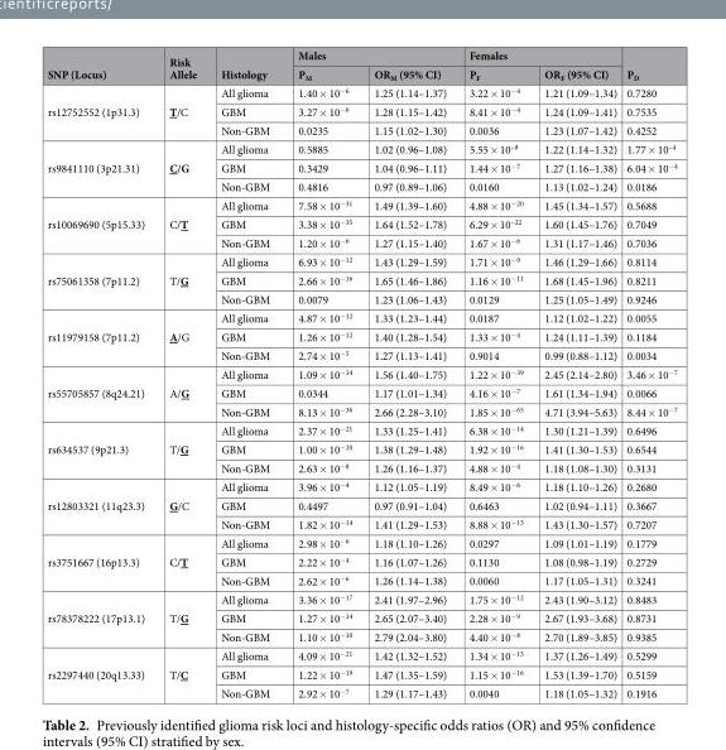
<table><thead><tr><td rowspan="2">SNP (Locus)</td><td rowspan="2">Risk Allele</td><td rowspan="2">Histology</td><td colspan="2">Males</td><td colspan="2">Females</td><td rowspan="2">P<sub>D</sub></td></tr><tr><td>P<sub>M</sub></td><td>OR<sub>M</sub> (95% CI)</td><td>P<sub>F</sub></td><td>OR<sub>F</sub> (95% CI)</td></tr></thead><tbody><tr><td rowspan="3">rs12752552 (1p31.3)</td><td rowspan="3">T/C</td><td>All glioma</td><td>1.40 × 10<sup>−6</sup></td><td>1.25 (1.14–1.37)</td><td>3.22 × 10<sup>−4</sup></td><td>1.21 (1.09–1.34)</td><td>0.7280</td></tr><tr><td>GBM</td><td>3.27 × 10<sup>−6</sup></td><td>1.28 (1.15–1.42)</td><td>8.41 × 10<sup>−4</sup></td><td>1.24 (1.09–1.41)</td><td>0.7535</td></tr><tr><td>Non-GBM</td><td>0.0235</td><td>1.15 (1.02–1.30)</td><td>0.0036</td><td>1.23 (1.07–1.42)</td><td>0.4252</td></tr><tr><td rowspan="3">rs9841110 (3p21.31)</td><td rowspan="3">C/G</td><td>All glioma</td><td>0.5885</td><td>1.02 (0.96–1.08)</td><td>5.55 × 10<sup>–8</sup></td><td>1.22 (1.14–1.32)</td><td>1.77 × 10<sup>–4</sup></td></tr><tr><td>GBM</td><td>0.3429</td><td>1.04 (0.96–1.11)</td><td>1.44 × 10<sup>−7</sup></td><td>1.27 (1.16–1.38)</td><td>6.04 × 10<sup>−4</sup></td></tr><tr><td>Non-GBM</td><td>0.4816</td><td>0.97 (0.89–1.06)</td><td>0.0160</td><td>1.13 (1.02–1.24)</td><td>0.0186</td></tr><tr><td rowspan="3">rs10069690 (5p15.33)</td><td rowspan="3">C/T</td><td>All glioma</td><td>7.58 × 10<sup>−31</sup></td><td>1.49 (1.39–1.60)</td><td>4.88 × 10<sup>−20</sup></td><td>1.45 (1.34–1.57)</td><td>0.5688</td></tr><tr><td>GBM</td><td>3.38 × 10<sup>−35</sup></td><td>1.64 (1.52–1.78)</td><td>6.29 × 10<sup>–22</sup></td><td>1.60 (1.45–1.76)</td><td>0.7049</td></tr><tr><td>Non-GBM</td><td>1.20 × 10<sup>−6</sup></td><td>1.27 (1.15–1.40)</td><td>1.67 × 10<sup>−6</sup></td><td>1.31 (1.17–1.46)</td><td>0.7036</td></tr><tr><td rowspan="3">rs75061358 (7p11.2)</td><td rowspan="3">T/G</td><td>All glioma</td><td>6.93 × 10<sup>−12</sup></td><td>1.43 (1.29–1.59)</td><td>1.71 × 10<sup>−9</sup></td><td>1.46 (1.29–1.66)</td><td>0.8114</td></tr><tr><td>GBM</td><td>2.66 × 10<sup>−16</sup></td><td>1.65 (1.46–1.86)</td><td>1.16 × 10<sup>−11</sup></td><td>1.68 (1.45–1.96)</td><td>0.8211</td></tr><tr><td>Non-GBM</td><td>0.0079</td><td>1.23 (1.06–1.43)</td><td>0.0129</td><td>1.25 (1.05–1.49)</td><td>0.9246</td></tr><tr><td rowspan="3">rs11979158 (7p11.2)</td><td rowspan="3">A/G</td><td>All glioma</td><td>4.87 × 10<sup>−12</sup></td><td>1.33 (1.23–1.44)</td><td>0.0187</td><td>1.12 (1.02–1.22)</td><td>0.0055</td></tr><tr><td>GBM</td><td>1.26 × 10<sup>−12</sup></td><td>1.40 (1.28–1.54)</td><td>1.33 × 10<sup>−4</sup></td><td>1.24 (1.11–1.39)</td><td>0.1184</td></tr><tr><td>Non-GBM</td><td>2.74 × 10<sup>−5</sup></td><td>1.27 (1.13–1.41)</td><td>0.9014</td><td>0.99 (0.88–1.12)</td><td>0.0034</td></tr><tr><td rowspan="3">rs55705857 (8q24.21)</td><td rowspan="3">A/G</td><td>All glioma</td><td>1.09 × 10<sup>−14</sup></td><td>1.56 (1.40–1.75)</td><td>1.22 × 10<sup>−39</sup></td><td>2.45 (2.14–2.80)</td><td>3.46 × 10<sup>−7</sup></td></tr><tr><td>GBM</td><td>0.0344</td><td>1.17 (1.01–1.34)</td><td>4.16 × 10<sup>−7</sup></td><td>1.61 (1.34–1.94)</td><td>0.0066</td></tr><tr><td>Non-GBM</td><td>8.13 × 10<sup>−36</sup></td><td>2.66 (2.28–3.10)</td><td>1.85 × 10<sup>−65</sup></td><td>4.71 (3.94–5.63)</td><td>8.44 × 10<sup>−7</sup></td></tr><tr><td rowspan="3">rs634537 (9p21.3)</td><td rowspan="3">T/G</td><td>All glioma</td><td>2.37 × 10<sup>−21</sup></td><td>1.33 (1.25–1.41)</td><td>6.38 × 10<sup>−14</sup></td><td>1.30 (1.21–1.39)</td><td>0.6496</td></tr><tr><td>GBM</td><td>1.00 × 10<sup>−20</sup></td><td>1.38 (1.29–1.48)</td><td>1.92 × 10<sup>−16</sup></td><td>1.41 (1.30–1.53)</td><td>0.6544</td></tr><tr><td>Non-GBM</td><td>2.63 × 10<sup>−8</sup></td><td>1.26 (1.16–1.37)</td><td>4.88 × 10<sup>−4</sup></td><td>1.18 (1.08–1.30)</td><td>0.3131</td></tr><tr><td rowspan="3">rs12803321 (11q23.3)</td><td rowspan="3">G/C</td><td>All glioma</td><td>3.96 × 10<sup>−4</sup></td><td>1.12 (1.05–1.19)</td><td>8.49 × 10<sup>−6</sup></td><td>1.18 (1.10–1.26)</td><td>0.2680</td></tr><tr><td>GBM</td><td>0.4497</td><td>0.97 (0.91–1.04)</td><td>0.6463</td><td>1.02 (0.94–1.11)</td><td>0.3667</td></tr><tr><td>Non-GBM</td><td>1.82 × 10<sup>−14</sup></td><td>1.41 (1.29–1.53)</td><td>8.88 × 10<sup>−13</sup></td><td>1.43 (1.30–1.57)</td><td>0.7207</td></tr><tr><td rowspan="3">rs3751667 (16p13.3)</td><td rowspan="3">C/T</td><td>All glioma</td><td>2.98 × 10<sup>−6</sup></td><td>1.18 (1.10–1.26)</td><td>0.0297</td><td>1.09 (1.01–1.19)</td><td>0.1779</td></tr><tr><td>GBM</td><td>2.22 × 10<sup>−4</sup></td><td>1.16 (1.07–1.26)</td><td>0.1130</td><td>1.08 (0.98–1.19)</td><td>0.2729</td></tr><tr><td>Non-GBM</td><td>2.62 × 10<sup>−6</sup></td><td>1.26 (1.14–1.38)</td><td>0.0060</td><td>1.17 (1.05–1.31)</td><td>0.3241</td></tr><tr><td rowspan="3">rs78378222 (17p13.1)</td><td rowspan="3">T/G</td><td>All glioma</td><td>3.36 × 10<sup>−17</sup></td><td>2.41 (1.97–2.96)</td><td>1.75 × 10<sup>−12</sup></td><td>2.43 (1.90–3.12)</td><td>0.8483</td></tr><tr><td>GBM</td><td>1.27 × 10<sup>−14</sup></td><td>2.65 (2.07–3.40)</td><td>2.28 × 10<sup>−9</sup></td><td>2.67 (1.93–3.68)</td><td>0.8731</td></tr><tr><td>Non-GBM</td><td>1.10 × 10<sup>−10</sup></td><td>2.79 (2.04–3.80)</td><td>4.40 × 10<sup>−8</sup></td><td>2.70 (1.89–3.85)</td><td>0.9385</td></tr><tr><td rowspan="3">rs2297440 (20q13.33)</td><td rowspan="3">T/C</td><td>All glioma</td><td>4.09 × 10<sup>−21</sup></td><td>1.42 (1.32–1.52)</td><td>1.34 × 10<sup>−13</sup></td><td>1.37 (1.26–1.49)</td><td>0.5299</td></tr><tr><td>GBM</td><td>1.22 × 10<sup>−19</sup></td><td>1.47 (1.35–1.59)</td><td>1.15 × 10<sup>−16</sup></td><td>1.53 (1.39–1.70)</td><td>0.5159</td></tr><tr><td>Non-GBM</td><td>2.92 × 10<sup>−7</sup></td><td>1.29 (1.17–1.43)</td><td>0.0040</td><td>1.18 (1.05–1.32)</td><td>0.1916</td></tr></tbody></table>